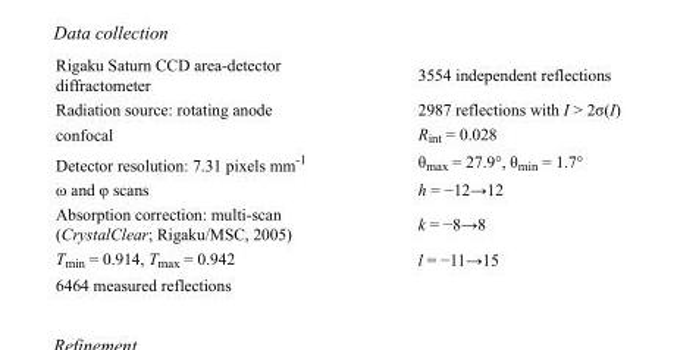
<table><tbody><tr><td>Rigaku Saturn CCD area-detector diffractometer</td><td>3554 independent reflections</td></tr><tr><td>Radiation source: rotating anode</td><td>2987 reflections with I &gt; 2σ(I)</td></tr><tr><td>confocal</td><td>R<sub>int</sub> = 0.028</td></tr><tr><td>Detector resolution: 7.31 pixels mm<sup>-1</sup></td><td>θ<sub>max</sub> = 27.9°, θ<sub>min</sub> = 1.7°</td></tr><tr><td>ω and φ scans</td><td>h = −12→12</td></tr><tr><td>Absorption correction: multi-scan (CrystalClear; Rigaku/MSC, 2005)</td><td>k = −8→8</td></tr><tr><td>T<sub>min</sub> = 0.914, T<sub>max</sub> = 0.942</td><td>l = −11→15</td></tr><tr><td>6464 measured reflections</td><td></td></tr></tbody></table>